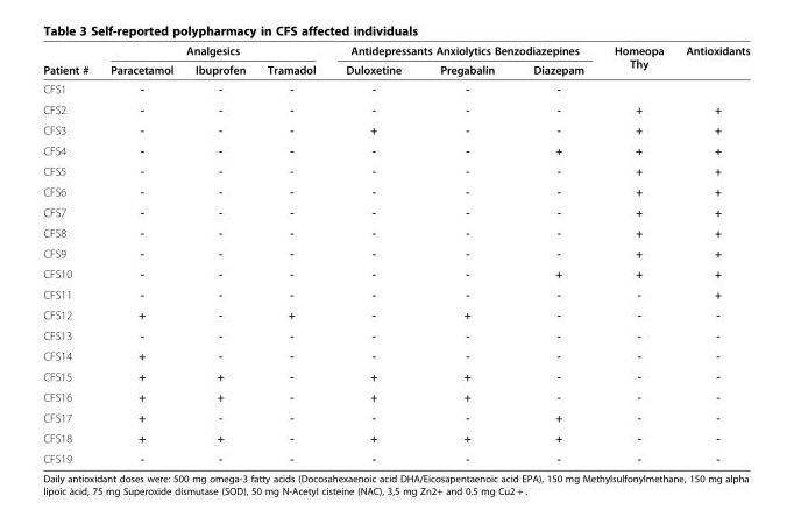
<table><thead><tr><td rowspan="2">Patient #</td><td colspan="3">Analgesics</td><td colspan="3">Antidepressants Anxiolytics Benzodiazepines</td><td rowspan="2">Homeopa Thy</td><td rowspan="2">Antioxidants</td></tr><tr><td>Paracetamol</td><td>Ibuprofen</td><td>Tramadol</td><td>Duloxetine</td><td>Pregabalin</td><td>Diazepam</td></tr></thead><tbody><tr><td>CFS1</td><td>-</td><td>-</td><td>-</td><td>-</td><td>-</td><td>-</td><td></td><td></td></tr><tr><td>CFS2</td><td>-</td><td>-</td><td>-</td><td>-</td><td>-</td><td>-</td><td>+</td><td>+</td></tr><tr><td>CFS3</td><td>-</td><td>-</td><td>-</td><td>+</td><td>-</td><td>-</td><td>+</td><td>+</td></tr><tr><td>CFS4</td><td>-</td><td>-</td><td>-</td><td>-</td><td>-</td><td>+</td><td>+</td><td>+</td></tr><tr><td>CFS5</td><td>-</td><td>-</td><td>-</td><td>-</td><td>-</td><td>-</td><td>+</td><td>+</td></tr><tr><td>CFS6</td><td>-</td><td>-</td><td>-</td><td>-</td><td>-</td><td>-</td><td>+</td><td>+</td></tr><tr><td>CFS7</td><td>-</td><td>-</td><td>-</td><td>-</td><td>-</td><td>-</td><td>+</td><td>+</td></tr><tr><td>CFS8</td><td>-</td><td>-</td><td>-</td><td>-</td><td>-</td><td>-</td><td>+</td><td>+</td></tr><tr><td>CFS9</td><td>-</td><td>-</td><td>-</td><td>-</td><td>-</td><td>-</td><td>+</td><td>+</td></tr><tr><td>CFS10</td><td>-</td><td>-</td><td>-</td><td>-</td><td>-</td><td>+</td><td>+</td><td>+</td></tr><tr><td>CFS11</td><td>-</td><td>-</td><td>-</td><td>-</td><td>-</td><td>-</td><td>-</td><td>+</td></tr><tr><td>CFS12</td><td>+</td><td>-</td><td>+</td><td>-</td><td>+</td><td>-</td><td>-</td><td>-</td></tr><tr><td>CFS13</td><td>-</td><td>-</td><td>-</td><td>-</td><td>-</td><td>-</td><td>-</td><td>-</td></tr><tr><td>CFS14</td><td>+</td><td>-</td><td>-</td><td>-</td><td>-</td><td>-</td><td>-</td><td>-</td></tr><tr><td>CFS15</td><td>+</td><td>+</td><td>-</td><td>+</td><td>+</td><td>-</td><td>-</td><td>-</td></tr><tr><td>CFS16</td><td>+</td><td>+</td><td>-</td><td>+</td><td>+</td><td>-</td><td>-</td><td>-</td></tr><tr><td>CFS17</td><td>+</td><td>-</td><td>-</td><td>-</td><td>-</td><td>+</td><td>-</td><td>-</td></tr><tr><td>CFS18</td><td>+</td><td>+</td><td>-</td><td>+</td><td>+</td><td>+</td><td>-</td><td>-</td></tr><tr><td>CFS19</td><td>-</td><td>-</td><td>-</td><td>-</td><td>-</td><td>-</td><td>-</td><td>-</td></tr></tbody></table>